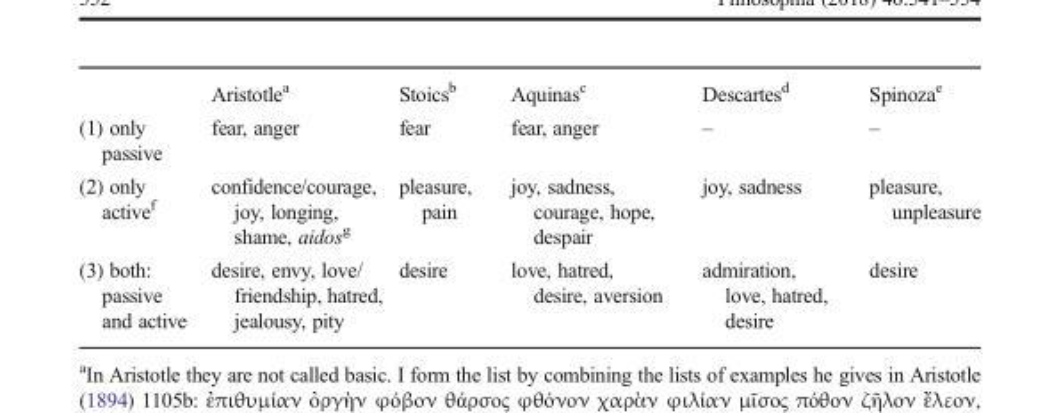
<table><thead><tr><td></td><td>Aristotle<sup>a</sup></td><td>Stoics<sup>b</sup></td><td>Aquinas<sup>c</sup></td><td>Descartes<sup>d</sup></td><td>Spinoza<sup>e</sup></td></tr></thead><tbody><tr><td>(1) only passive</td><td>fear, anger</td><td>fear</td><td>fear, anger</td><td>–</td><td>–</td></tr><tr><td>(2) only active<sup>f</sup></td><td>confidence/courage, joy, longing, shame, aidos<sup>g</sup></td><td>pleasure, pain</td><td>joy, sadness, courage, hope, despair</td><td>joy, sadness</td><td>pleasure, unpleasure</td></tr><tr><td>(3) both: passive and active</td><td>desire, envy, love/ friendship, hatred, jealousy, pity</td><td>desire</td><td>love, hatred, desire, aversion</td><td>admiration, love, hatred, desire</td><td>desire</td></tr></tbody></table>